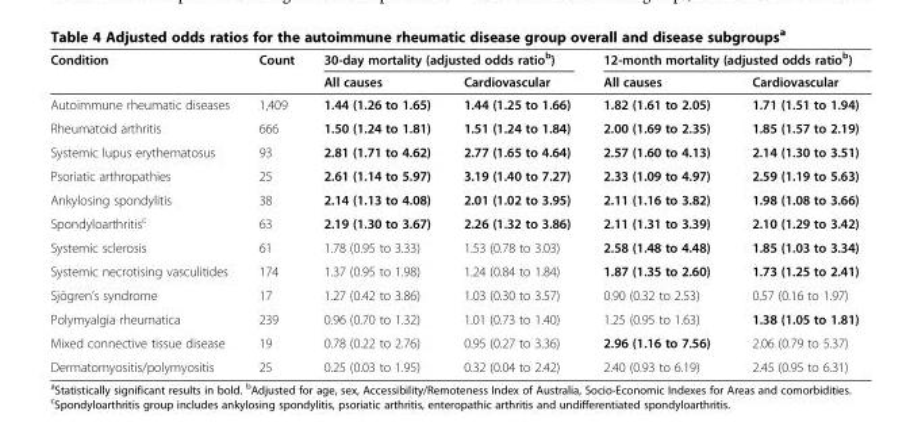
<table><thead><tr><td rowspan="2">Condition</td><td rowspan="2">Count</td><td colspan="2">30-day mortality (adjusted odds ratio<sup>b</sup>)</td><td colspan="2">12-month mortality (adjusted odds ratio<sup>b</sup>)</td></tr><tr><td>All causes</td><td>Cardiovascular</td><td>All causes</td><td>Cardiovascular</td></tr></thead><tbody><tr><td>Autoimmune rheumatic diseases</td><td>1,409</td><td>1.44 (1.26 to 1.65)</td><td>1.44 (1.25 to 1.66)</td><td>1.82 (1.61 to 2.05)</td><td>1.71 (1.51 to 1.94)</td></tr><tr><td>Rheumatoid arthritis</td><td>666</td><td>1.50 (1.24 to 1.81)</td><td>1.51 (1.24 to 1.84)</td><td>2.00 (1.69 to 2.35)</td><td>1.85 (1.57 to 2.19)</td></tr><tr><td>Systemic lupus erythematosus</td><td>93</td><td>2.81 (1.71 to 4.62)</td><td>2.77 (1.65 to 4.64)</td><td>2.57 (1.60 to 4.13)</td><td>2.14 (1.30 to 3.51)</td></tr><tr><td>Psoriatic arthropathies</td><td>25</td><td>2.61 (1.14 to 5.97)</td><td>3.19 (1.40 to 7.27)</td><td>2.33 (1.09 to 4.97)</td><td>2.59 (1.19 to 5.63)</td></tr><tr><td>Ankylosing spondylitis</td><td>38</td><td>2.14 (1.13 to 4.08)</td><td>2.01 (1.02 to 3.95)</td><td>2.11 (1.16 to 3.82)</td><td>1.98 (1.08 to 3.66)</td></tr><tr><td>Spondyloarthritis<sup>c</sup></td><td>63</td><td>2.19 (1.30 to 3.67)</td><td>2.26 (1.32 to 3.86)</td><td>2.11 (1.31 to 3.39)</td><td>2.10 (1.29 to 3.42)</td></tr><tr><td>Systemic sclerosis</td><td>61</td><td>1.78 (0.95 to 3.33)</td><td>1.53 (0.78 to 3.03)</td><td>2.58 (1.48 to 4.48)</td><td>1.85 (1.03 to 3.34)</td></tr><tr><td>Systemic necrotising vasculitides</td><td>174</td><td>1.37 (0.95 to 1.98)</td><td>1.24 (0.84 to 1.84)</td><td>1.87 (1.35 to 2.60)</td><td>1.73 (1.25 to 2.41)</td></tr><tr><td>Sjögren’s syndrome</td><td>17</td><td>1.27 (0.42 to 3.86)</td><td>1.03 (0.30 to 3.57)</td><td>0.90 (0.32 to 2.53)</td><td>0.57 (0.16 to 1.97)</td></tr><tr><td>Polymyalgia rheumatica</td><td>239</td><td>0.96 (0.70 to 1.32)</td><td>1.01 (0.73 to 1.40)</td><td>1.25 (0.95 to 1.63)</td><td>1.38 (1.05 to 1.81)</td></tr><tr><td>Mixed connective tissue disease</td><td>19</td><td>0.78 (0.22 to 2.76)</td><td>0.95 (0.27 to 3.36)</td><td>2.96 (1.16 to 7.56)</td><td>2.06 (0.79 to 5.37)</td></tr><tr><td>Dermatomyositis/polymyositis</td><td>25</td><td>0.25 (0.03 to 1.95)</td><td>0.32 (0.04 to 2.42)</td><td>2.40 (0.93 to 6.19)</td><td>2.45 (0.95 to 6.31)</td></tr></tbody></table>